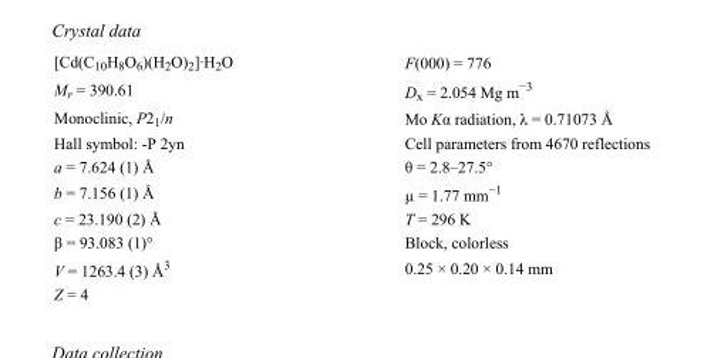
<table><tbody><tr><td>[Cd(C<sub>10</sub>H<sub>8</sub>O<sub>6</sub>)(H<sub>2</sub>O)<sub>2</sub>]·H<sub>2</sub>O</td><td>F(000) = 776</td></tr><tr><td>M<sub>r</sub> = 390.61</td><td>D<sub>x</sub> = 2.054 Mg m<sup>−3</sup></td></tr><tr><td>Monoclinic, P2<sub>1</sub>/n</td><td>Mo Kα radiation, λ = 0.71073 Å</td></tr><tr><td>Hall symbol: -P 2yn</td><td>Cell parameters from 4670 reflections</td></tr><tr><td>a = 7.624 (1) Å</td><td>θ = 2.8–27.5°</td></tr><tr><td>b = 7.156 (1) Å</td><td>µ = 1.77 mm<sup>−1</sup></td></tr><tr><td>c = 23.190 (2) Å</td><td>T = 296 K</td></tr><tr><td>β = 93.083 (1)°</td><td>Block, colorless</td></tr><tr><td>V = 1263.4 (3) Å<sup>3</sup></td><td>0.25 × 0.20 × 0.14 mm</td></tr><tr><td>Z = 4</td><td></td></tr></tbody></table>